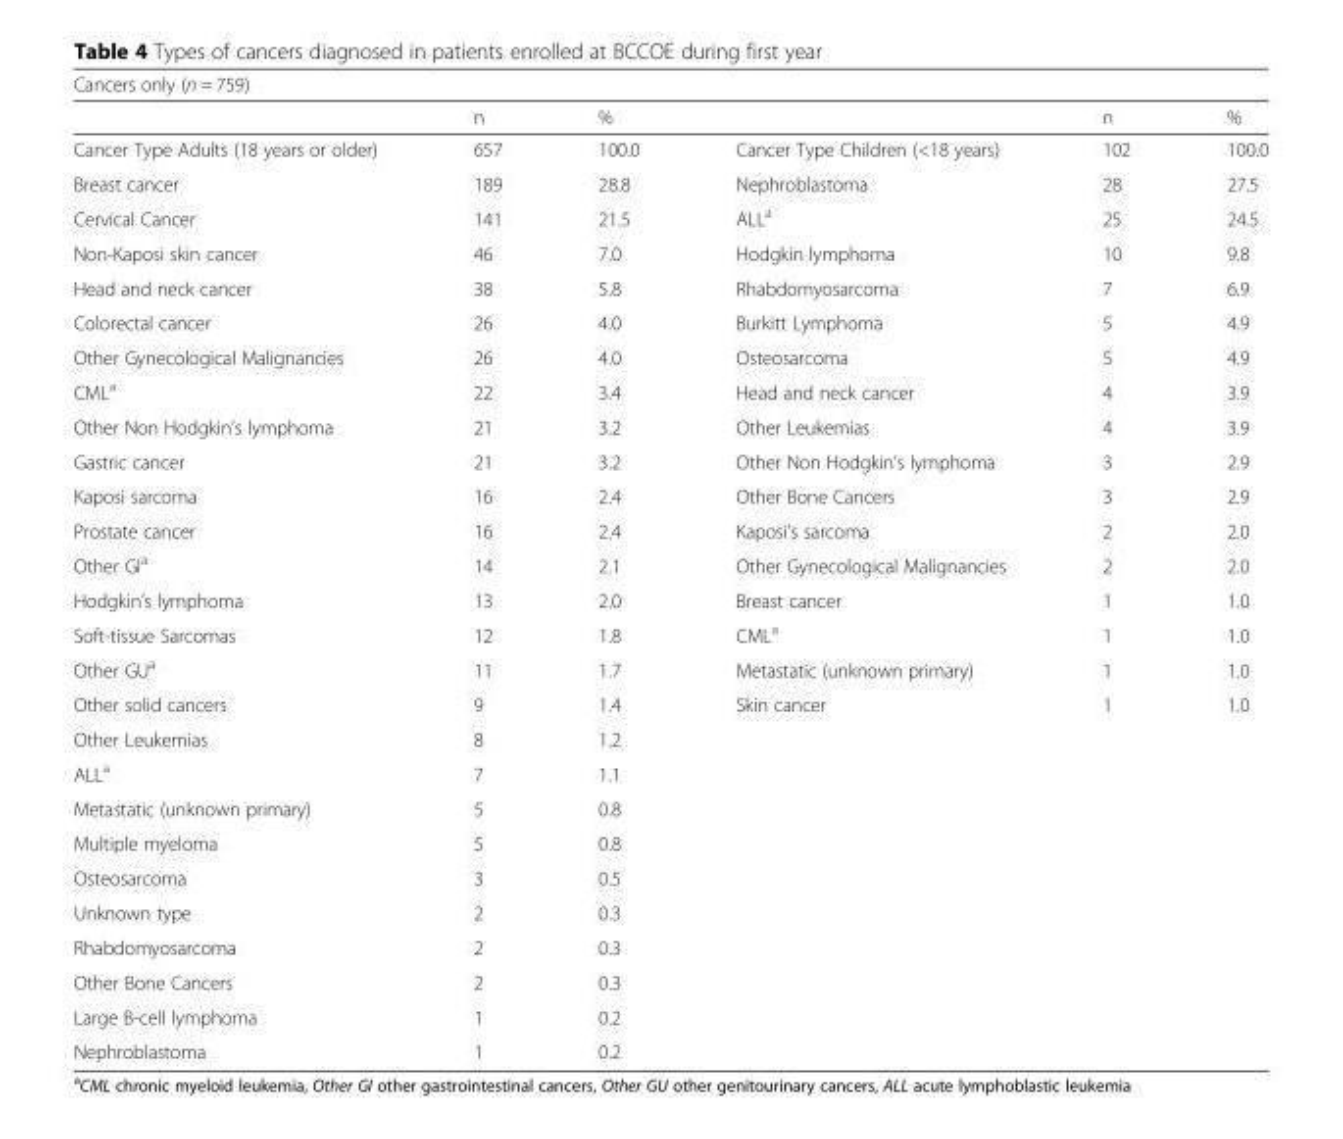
<table><thead><tr><td colspan="6">Cancers only (n = 759)</td></tr><tr><td></td><td>n</td><td>%</td><td></td><td>n</td><td>%</td></tr></thead><tbody><tr><td>Cancer Type Adults (18 years or older)</td><td>657</td><td>100.0</td><td>Cancer Type Children (&lt;18 years)</td><td>102</td><td>100.0</td></tr><tr><td>Breast cancer</td><td>189</td><td>28.8</td><td>Nephroblastoma</td><td>28</td><td>27.5</td></tr><tr><td>Cervical Cancer</td><td>141</td><td>21.5</td><td>ALL<sup>a</sup></td><td>25</td><td>24.5</td></tr><tr><td>Non-Kaposi skin cancer</td><td>46</td><td>7.0</td><td>Hodgkin lymphoma</td><td>10</td><td>9.8</td></tr><tr><td>Head and neck cancer</td><td>38</td><td>5.8</td><td>Rhabdomyosarcoma</td><td>7</td><td>6.9</td></tr><tr><td>Colorectal cancer</td><td>26</td><td>4.0</td><td>Burkitt Lymphoma</td><td>5</td><td>4.9</td></tr><tr><td>Other Gynecological Malignancies</td><td>26</td><td>4.0</td><td>Osteosarcoma</td><td>5</td><td>4.9</td></tr><tr><td>CML<sup>a</sup></td><td>22</td><td>3.4</td><td>Head and neck cancer</td><td>4</td><td>3.9</td></tr><tr><td>Other Non Hodgkin’s lymphoma</td><td>21</td><td>3.2</td><td>Other Leukemias</td><td>4</td><td>3.9</td></tr><tr><td>Gastric cancer</td><td>21</td><td>3.2</td><td>Other Non Hodgkin’s lymphoma</td><td>3</td><td>2.9</td></tr><tr><td>Kaposi sarcoma</td><td>16</td><td>2.4</td><td>Other Bone Cancers</td><td>3</td><td>2.9</td></tr><tr><td>Prostate cancer</td><td>16</td><td>2.4</td><td>Kaposi’s sarcoma</td><td>2</td><td>2.0</td></tr><tr><td>Other GI<sup>a</sup></td><td>14</td><td>2.1</td><td>Other Gynecological Malignancies</td><td>2</td><td>2.0</td></tr><tr><td>Hodgkin’s lymphoma</td><td>13</td><td>2.0</td><td>Breast cancer</td><td>1</td><td>1.0</td></tr><tr><td>Soft-tissue Sarcomas</td><td>12</td><td>1.8</td><td>CML<sup>a</sup></td><td>1</td><td>1.0</td></tr><tr><td>Other GU<sup>a</sup></td><td>11</td><td>1.7</td><td>Metastatic (unknown primary)</td><td>1</td><td>1.0</td></tr><tr><td>Other solid cancers</td><td>9</td><td>1.4</td><td>Skin cancer</td><td>1</td><td>1.0</td></tr><tr><td>Other Leukemias</td><td>8</td><td>1.2</td><td></td><td></td><td></td></tr><tr><td>ALL<sup>a</sup></td><td>7</td><td>1.1</td><td></td><td></td><td></td></tr><tr><td>Metastatic (unknown primary)</td><td>5</td><td>0.8</td><td></td><td></td><td></td></tr><tr><td>Multiple myeloma</td><td>5</td><td>0.8</td><td></td><td></td><td></td></tr><tr><td>Osteosarcoma</td><td>3</td><td>0.5</td><td></td><td></td><td></td></tr><tr><td>Unknown type</td><td>2</td><td>0.3</td><td></td><td></td><td></td></tr><tr><td>Rhabdomyosarcoma</td><td>2</td><td>0.3</td><td></td><td></td><td></td></tr><tr><td>Other Bone Cancers</td><td>2</td><td>0.3</td><td></td><td></td><td></td></tr><tr><td>Large B-cell lymphoma</td><td>1</td><td>0.2</td><td></td><td></td><td></td></tr><tr><td>Nephroblastoma</td><td>1</td><td>0.2</td><td></td><td></td><td></td></tr></tbody></table>